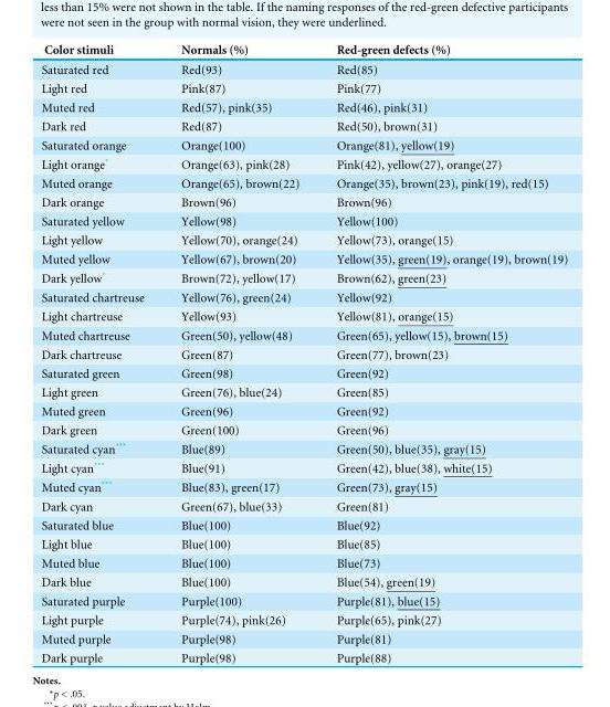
<table><thead><tr><td>Color stimuli</td><td>Normals (%)</td><td>Red-green defects (%)</td></tr></thead><tbody><tr><td>Saturated red</td><td>Red(93)</td><td>Red(85)</td></tr><tr><td>Light red</td><td>Pink(87)</td><td>Pink(77)</td></tr><tr><td>Muted red</td><td>Red(57), pink(35)</td><td>Red(46), pink(31)</td></tr><tr><td>Dark red</td><td>Red(87)</td><td>Red(50), brown(31)</td></tr><tr><td>Saturated orange</td><td>Orange(100)</td><td>Orange(81), yellow(19)</td></tr><tr><td>Light orange*</td><td>Orange(63), pink(28)</td><td>Pink(42), yellow(27), orange(27)</td></tr><tr><td>Muted orange</td><td>Orange(65), brown(22)</td><td>Orange(35), brown(23), pink(19), red(15)</td></tr><tr><td>Dark orange</td><td>Brown(96)</td><td>Brown(96)</td></tr><tr><td>Saturated yellow</td><td>Yellow(98)</td><td>Yellow(100)</td></tr><tr><td>Light yellow</td><td>Yellow(70), orange(24)</td><td>Yellow(73), orange(15)</td></tr><tr><td>Muted yellow</td><td>Yellow(67), brown(20)</td><td>Yellow(35), green(19), orange(19), brown(19)</td></tr><tr><td>Dark yellow*</td><td>Brown(72), yellow(17)</td><td>Brown(62), green(23)</td></tr><tr><td>Saturated chartreuse</td><td>Yellow(76), green(24)</td><td>Yellow(92)</td></tr><tr><td>Light chartreuse</td><td>Yellow(93)</td><td>Yellow(81), orange(15)</td></tr><tr><td>Muted chartreuse</td><td>Green(50), yellow(48)</td><td>Green(65), yellow(15), brown(15)</td></tr><tr><td>Dark chartreuse</td><td>Green(87)</td><td>Green(77), brown(23)</td></tr><tr><td>Saturated green</td><td>Green(98)</td><td>Green(92)</td></tr><tr><td>Light green</td><td>Green(76), blue(24)</td><td>Green(85)</td></tr><tr><td>Muted green</td><td>Green(96)</td><td>Green(92)</td></tr><tr><td>Dark green</td><td>Green(100)</td><td>Green(96)</td></tr><tr><td>Saturated cyan***</td><td>Blue(89)</td><td>Green(50), blue(35), gray(15)</td></tr><tr><td>Light cyan***</td><td>Blue(91)</td><td>Green(42), blue(38), white(15)</td></tr><tr><td>Muted cyan***</td><td>Blue(83), green(17)</td><td>Green(73), gray(15)</td></tr><tr><td>Dark cyan</td><td>Green(67), blue(33)</td><td>Green(81)</td></tr><tr><td>Saturated blue</td><td>Blue(100)</td><td>Blue(92)</td></tr><tr><td>Light blue</td><td>Blue(100)</td><td>Blue(85)</td></tr><tr><td>Muted blue</td><td>Blue(100)</td><td>Blue(73)</td></tr><tr><td>Dark blue</td><td>Blue(100)</td><td>Blue(54), green(19)</td></tr><tr><td>Saturated purple</td><td>Purple(100)</td><td>Purple(81), blue(15)</td></tr><tr><td>Light purple</td><td>Purple(74), pink(26)</td><td>Purple(65), pink(27)</td></tr><tr><td>Muted purple</td><td>Purple(98)</td><td>Purple(81)</td></tr><tr><td>Dark purple</td><td>Purple(98)</td><td>Purple(88)</td></tr></tbody></table>